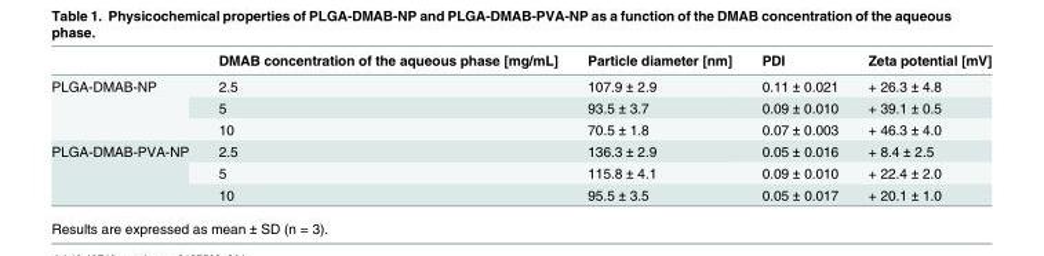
<table><thead><tr><td></td><td>DMAB concentration of the aqueous phase [mg/mL]</td><td>Particle diameter [nm]</td><td>PDI</td><td>Zeta potential [mV]</td></tr></thead><tbody><tr><td rowspan="3">PLGA-DMAB-NP</td><td>2.5</td><td>107.9 ± 2.9</td><td>0.11 ± 0.021</td><td>+ 26.3 ± 4.8</td></tr><tr><td>5</td><td>93.5 ± 3.7</td><td>0.09 ± 0.010</td><td>+ 39.1 ± 0.5</td></tr><tr><td>10</td><td>70.5 ± 1.8</td><td>0.07 ± 0.003</td><td>+ 46.3 ± 4.0</td></tr><tr><td rowspan="3">PLGA-DMAB-PVA-NP</td><td>2.5</td><td>136.3 ± 2.9</td><td>0.05 ± 0.016</td><td>+ 8.4 ± 2.5</td></tr><tr><td>5</td><td>115.8 ± 4.1</td><td>0.09 ± 0.010</td><td>+ 22.4 ± 2.0</td></tr><tr><td>10</td><td>95.5 ± 3.5</td><td>0.05 ± 0.017</td><td>+ 20.1 ± 1.0</td></tr></tbody></table>